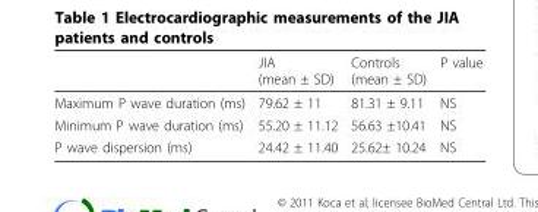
<table><thead><tr><td></td><td>JIA (mean ± SD)</td><td>Controls (mean ± SD)</td><td>P value</td></tr></thead><tbody><tr><td>Maximum P wave duration (ms)</td><td>79.62 ± 11</td><td>81.31 ± 9.11</td><td>NS</td></tr><tr><td>Minimum P wave duration (ms)</td><td>55.20 ± 11.12</td><td>56.63 ±10.41</td><td>NS</td></tr><tr><td>P wave dispersion (ms)</td><td>24.42 ± 11.40</td><td>25.62± 10.24</td><td>NS</td></tr></tbody></table>